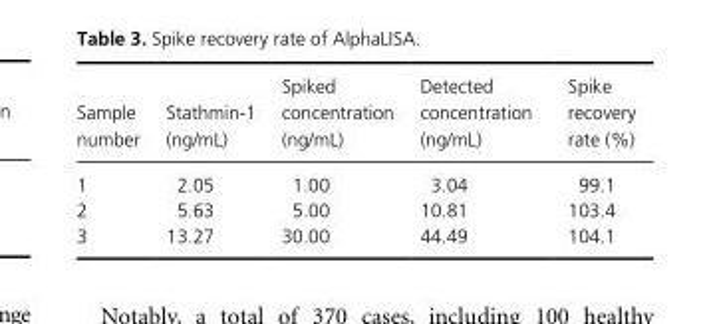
<table><thead><tr><td>Sample number</td><td>Stathmin- 1 (ng/mL)</td><td>Spiked concentration (ng/mL)</td><td>Detected concentration (ng/mL)</td><td>Spike recovery rate (%)</td></tr></thead><tbody><tr><td>1</td><td>2.05</td><td>1.00</td><td>3.04</td><td>99.1</td></tr><tr><td>2</td><td>5.63</td><td>5.00</td><td>10.81</td><td>103.4</td></tr><tr><td>3</td><td>13.27</td><td>30.00</td><td>44.49</td><td>104.1</td></tr></tbody></table>